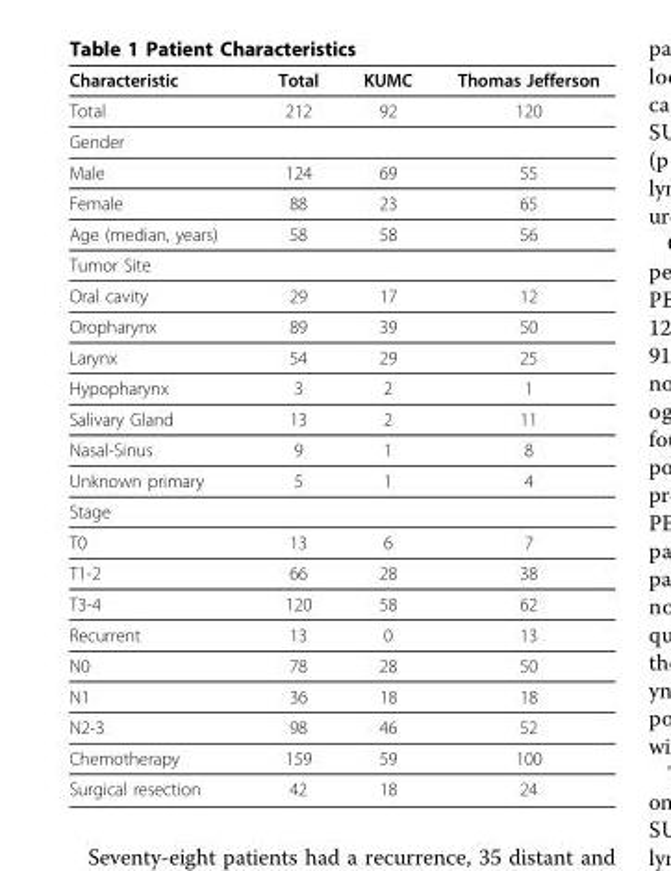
<table><thead><tr><td>Characteristic</td><td>Total</td><td>KUMC</td><td>Thomas Jefferson</td></tr></thead><tbody><tr><td>Total</td><td>212</td><td>92</td><td>120</td></tr><tr><td colspan="4">Gender</td></tr><tr><td>Male</td><td>124</td><td>69</td><td>55</td></tr><tr><td>Female</td><td>88</td><td>23</td><td>65</td></tr><tr><td>Age (median, years)</td><td>58</td><td>58</td><td>56</td></tr><tr><td colspan="4">Tumor Site</td></tr><tr><td>Oral cavity</td><td>29</td><td>17</td><td>12</td></tr><tr><td>Oropharynx</td><td>89</td><td>39</td><td>50</td></tr><tr><td>Larynx</td><td>54</td><td>29</td><td>25</td></tr><tr><td>Hypopharynx</td><td>3</td><td>2</td><td>1</td></tr><tr><td>Salivary Gland</td><td>13</td><td>2</td><td>11</td></tr><tr><td>Nasal-Sinus</td><td>9</td><td>1</td><td>8</td></tr><tr><td>Unknown primary</td><td>5</td><td>1</td><td>4</td></tr><tr><td colspan="4">Stage</td></tr><tr><td>T0</td><td>13</td><td>6</td><td>7</td></tr><tr><td>T1-2</td><td>66</td><td>28</td><td>38</td></tr><tr><td>T3-4</td><td>120</td><td>58</td><td>62</td></tr><tr><td>Recurrent</td><td>13</td><td>0</td><td>13</td></tr><tr><td>N0</td><td>78</td><td>28</td><td>50</td></tr><tr><td>N1</td><td>36</td><td>18</td><td>18</td></tr><tr><td>N2-3</td><td>98</td><td>46</td><td>52</td></tr><tr><td>Chemotherapy</td><td>159</td><td>59</td><td>100</td></tr><tr><td>Surgical resection</td><td>42</td><td>18</td><td>24</td></tr></tbody></table>